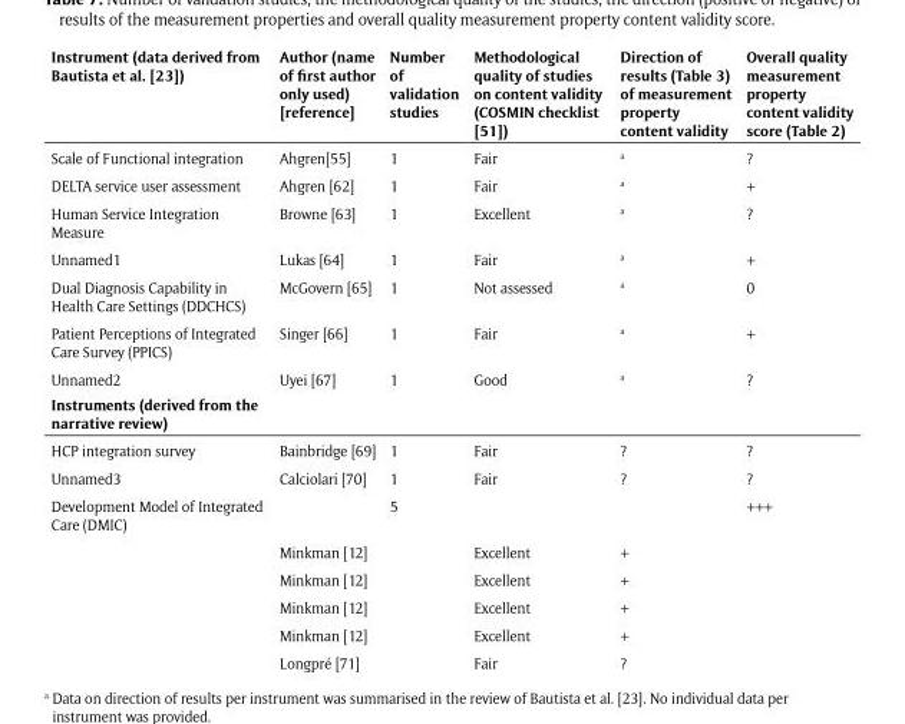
<table><thead><tr><td>Instrument (data derived from Bautista et al. [23])</td><td>Author (name of first author only used) [reference]</td><td>Number of validation studies</td><td>Methodological quality of studies on content validity (COSMIN checklist [51])</td><td>Direction of results (Table 3) of measurement property content validity</td><td>Overall quality measurement property content validity score (Table 2)</td></tr></thead><tbody><tr><td>Scale of Functional integration</td><td>Ahgren[55]</td><td>1</td><td>Fair</td><td><sup>a</sup></td><td>?</td></tr><tr><td>DELTA service user assessment</td><td>Ahgren [62]</td><td>1</td><td>Fair</td><td><sup>a</sup></td><td>+</td></tr><tr><td>Human Service Integration Measure</td><td>Browne [63]</td><td>1</td><td>Excellent</td><td><sup>a</sup></td><td>?</td></tr><tr><td>Unnamed1</td><td>Lukas [64]</td><td>1</td><td>Fair</td><td><sup>a</sup></td><td>+</td></tr><tr><td>Dual Diagnosis Capability in Health Care Settings (DDCHCS)</td><td>McGovern [65]</td><td>1</td><td>Not assessed</td><td><sup>a</sup></td><td>0</td></tr><tr><td>Patient Perceptions of Integrated Care Survey (PPICS)</td><td>Singer [66]</td><td>1</td><td>Fair</td><td><sup>a</sup></td><td>+</td></tr><tr><td>Unnamed2</td><td>Uyei [67]</td><td>1</td><td>Good</td><td><sup>a</sup></td><td>?</td></tr><tr><td colspan="6">Instruments (derived from the narrative review)</td></tr><tr><td>HCP integration survey</td><td>Bainbridge [69]</td><td>1</td><td>Fair</td><td>?</td><td>?</td></tr><tr><td>Unnamed3</td><td>Calciolari [70]</td><td>1</td><td>Fair</td><td>?</td><td>?</td></tr><tr><td rowspan="6">Development Model of Integrated Care (DMIC)</td><td></td><td>5</td><td></td><td></td><td>+++</td></tr><tr><td>Minkman [12]</td><td></td><td>Excellent</td><td>+</td><td></td></tr><tr><td>Minkman [12]</td><td></td><td>Excellent</td><td>+</td><td></td></tr><tr><td>Minkman [12]</td><td></td><td>Excellent</td><td>+</td><td></td></tr><tr><td>Minkman [12]</td><td></td><td>Excellent</td><td>+</td><td></td></tr><tr><td>Longpré [71]</td><td></td><td>Fair</td><td>?</td><td></td></tr></tbody></table>